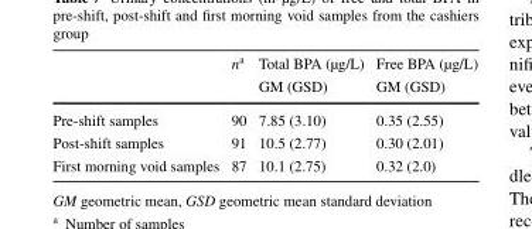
<table><thead><tr><td rowspan="2"></td><td rowspan="2">n<sup>a</sup></td><td rowspan="2">Total BPA (µg/L) GM (GSD)</td><td rowspan="2">Free BPA (µg/L) GM (GSD)</td></tr><tr></tr></thead><tbody><tr><td>Pre-shift samples</td><td>90</td><td>7.85 (3.10)</td><td>0.35 (2.55)</td></tr><tr><td>Post-shift samples</td><td>91</td><td>10.5 (2.77)</td><td>0.30 (2.01)</td></tr><tr><td>First morning void samples</td><td>87</td><td>10.1 (2.75)</td><td>0.32 (2.0)</td></tr></tbody></table>